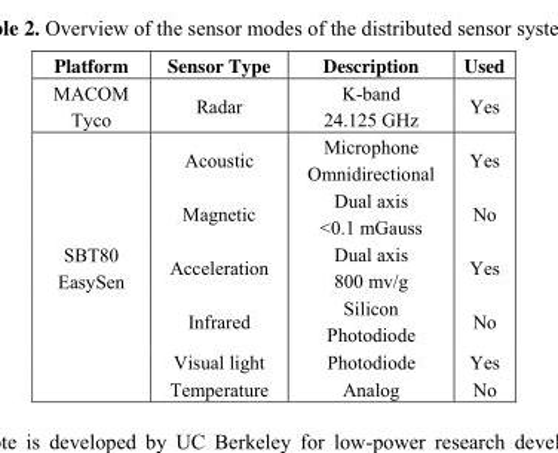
<table><thead><tr><td>Platform</td><td>Sensor Type</td><td>Description</td><td>Used</td></tr></thead><tbody><tr><td>MACOM Tyco</td><td>Radar</td><td>K-band 24.125 GHz</td><td>Yes</td></tr><tr><td rowspan="6">SBT80 EasySen</td><td>Acoustic</td><td>Microphone Omnidirectional</td><td>Yes</td></tr><tr><td>Magnetic</td><td>Dual axis &lt;0.1 mGauss</td><td>No</td></tr><tr><td>Acceleration</td><td>Dual axis 800 mv/g</td><td>Yes</td></tr><tr><td>Infrared</td><td>Silicon Photodiode</td><td>No</td></tr><tr><td>Visual light</td><td>Photodiode</td><td>Yes</td></tr><tr><td>Temperature</td><td>Analog</td><td>No</td></tr></tbody></table>